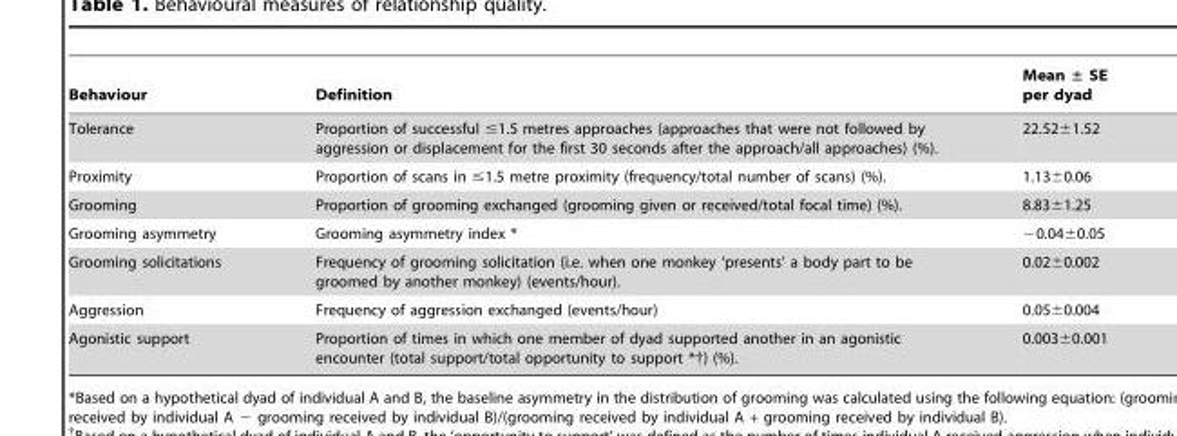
<table><thead><tr><td>Behaviour</td><td>Definition</td><td>Mean ± SE per dyad</td></tr></thead><tbody><tr><td>Tolerance</td><td>Proportion of successful ≤1.5 metres approaches (approaches that were not followed by aggression or displacement for the first 30 seconds after the approach/all approaches) (%).</td><td>22.52±1.52</td></tr><tr><td>Proximity</td><td>Proportion of scans in ≤1.5 metre proximity (frequency/total number of scans) (%).</td><td>1.13±0.06</td></tr><tr><td>Grooming</td><td>Proportion of grooming exchanged (grooming given or received/total focal time) (%).</td><td>8.83±1.25</td></tr><tr><td>Grooming asymmetry</td><td>Grooming asymmetry index *</td><td>−0.04±0.05</td></tr><tr><td>Grooming solicitations</td><td>Frequency of grooming solicitation (i.e. when one monkey ‘presents’ a body part to be groomed by another monkey) (events/hour).</td><td>0.02±0.002</td></tr><tr><td>Aggression</td><td>Frequency of aggression exchanged (events/hour)</td><td>0.05±0.004</td></tr><tr><td>Agonistic support</td><td>Proportion of times in which one member of dyad supported another in an agonistic encounter (total support/total opportunity to support *†) (%).</td><td>0.003±0.001</td></tr></tbody></table>